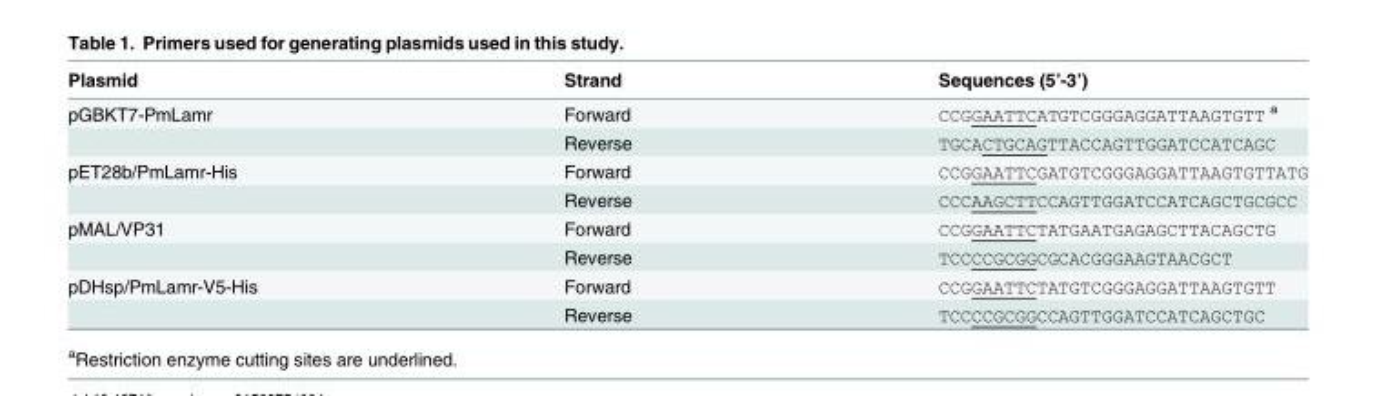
<table><thead><tr><td>Plasmid</td><td>Strand</td><td>Sequences (5’-3’)</td></tr></thead><tbody><tr><td rowspan="2">pGBKT7-PmLamr</td><td>Forward</td><td>CCGGAATTCATGTCGGGAGGATTAAGTGTT <sup>a</sup></td></tr><tr><td>Reverse</td><td>TGCACTGCAGTTACCAGTTGGATCCATCAGC</td></tr><tr><td rowspan="2">pET28b/PmLamr-His</td><td>Forward</td><td>CCGGAATTCGATGTCGGGAGGATTAAGTGTTATG</td></tr><tr><td>Reverse</td><td>CCCAAGCTTCCAGTTGGATCCATCAGCTGCGCC</td></tr><tr><td rowspan="2">pMAL/VP31</td><td>Forward</td><td>CCGGAATTCTATGAATGAGAGCTTACAGCTG</td></tr><tr><td>Reverse</td><td>TCCCCGCGGCGCACGGGAAGTAACGCT</td></tr><tr><td rowspan="2">pDHsp/PmLamr-V5-His</td><td>Forward</td><td>CCGGAATTCTATGTCGGGAGGATTAAGTGTT</td></tr><tr><td>Reverse</td><td>TCCCCGCGGCCAGTTGGATCCATCAGCTGC</td></tr></tbody></table>